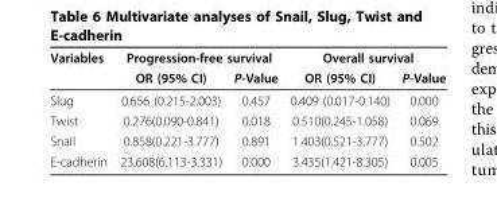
<table><thead><tr><td rowspan="2">Variables</td><td colspan="2">Progression-free survival</td><td colspan="2">Overall survival</td></tr><tr><td>OR (95% CI)</td><td>P-Value</td><td>OR (95% CI)</td><td>P-Value</td></tr></thead><tbody><tr><td>Slug</td><td>0.656 (0.215-2.003)</td><td>0.457</td><td>0.409 (0.017-0.140)</td><td>0.000</td></tr><tr><td>Twist</td><td>0.276(0.090-0.841)</td><td>0.018</td><td>0.510(0.245-1.058)</td><td>0.069</td></tr><tr><td>Snail</td><td>0.858(0.221-3.777)</td><td>0.891</td><td>1.403(0.521-3.777)</td><td>0.502</td></tr><tr><td>E-cadherin</td><td>23.608(6.113-3.331)</td><td>0.000</td><td>3.435(1.421-8.305)</td><td>0.005</td></tr></tbody></table>